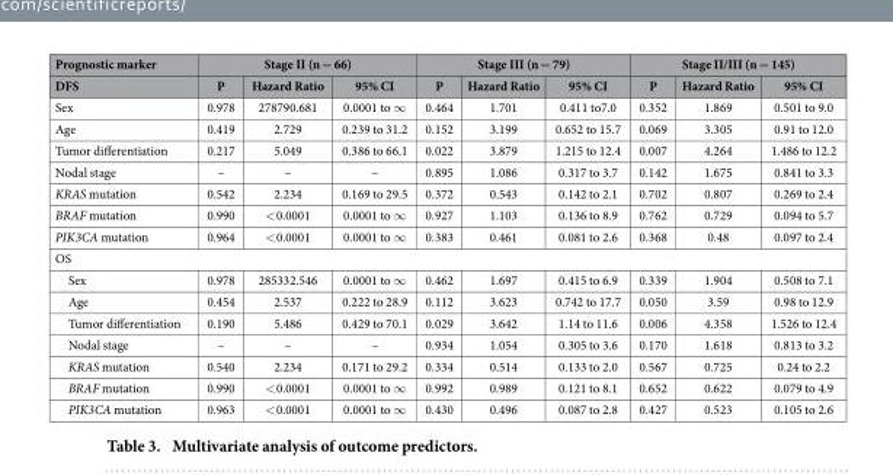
<table><thead><tr><td rowspan="2">Prognostic marker DFS</td><td colspan="3">Stage II (n = 66)</td><td colspan="3">Stage III (n = 79)</td><td colspan="3">Stage II/III (n = 145)</td></tr><tr><td>P</td><td>Hazard Ratio</td><td>95% CI</td><td>P</td><td>Hazard Ratio</td><td>95% CI</td><td>P</td><td>Hazard Ratio</td><td>95% CI</td></tr></thead><tbody><tr><td>Sex</td><td>0.978</td><td>278790.681</td><td>0.0001 to ∞</td><td>0.464</td><td>1.701</td><td>0.411 to7.0</td><td>0.352</td><td>1.869</td><td>0.501 to 9.0</td></tr><tr><td>Age</td><td>0.419</td><td>2.729</td><td>0.239 to 31.2</td><td>0.152</td><td>3.199</td><td>0.652 to 15.7</td><td>0.069</td><td>3.305</td><td>0.91 to 12.0</td></tr><tr><td>Tumor differentiation</td><td>0.217</td><td>5.049</td><td>0.386 to 66.1</td><td>0.022</td><td>3.879</td><td>1.215 to 12.4</td><td>0.007</td><td>4.264</td><td>1.486 to 12.2</td></tr><tr><td>Nodal stage</td><td>–</td><td>–</td><td>–</td><td>0.895</td><td>1.086</td><td>0.317 to 3.7</td><td>0.142</td><td>1.675</td><td>0.841 to 3.3</td></tr><tr><td>KRAS mutation</td><td>0.542</td><td>2.234</td><td>0.169 to 29.5</td><td>0.372</td><td>0.543</td><td>0.142 to 2.1</td><td>0.702</td><td>0.807</td><td>0.269 to 2.4</td></tr><tr><td>BRAF mutation</td><td>0.990</td><td>&lt; 0.0001</td><td>0.0001 to ∞</td><td>0.927</td><td>1.103</td><td>0.136 to 8.9</td><td>0.762</td><td>0.729</td><td>0.094 to 5.7</td></tr><tr><td>PIK3CA mutation</td><td>0.964</td><td>&lt; 0.0001</td><td>0.0001 to ∞</td><td>0.383</td><td>0.461</td><td>0.081 to 2.6</td><td>0.368</td><td>0.48</td><td>0.097 to 2.4</td></tr><tr><td colspan="10">OS</td></tr><tr><td>Sex</td><td>0.978</td><td>285332.546</td><td>0.0001 to ∞</td><td>0.462</td><td>1.697</td><td>0.415 to 6.9</td><td>0.339</td><td>1.904</td><td>0.508 to 7.1</td></tr><tr><td>Age</td><td>0.454</td><td>2.537</td><td>0.222 to 28.9</td><td>0.112</td><td>3.623</td><td>0.742 to 17.7</td><td>0.050</td><td>3.59</td><td>0.98 to 12.9</td></tr><tr><td>Tumor differentiation</td><td>0.190</td><td>5.486</td><td>0.429 to 70.1</td><td>0.029</td><td>3.642</td><td>1.14 to 11.6</td><td>0.006</td><td>4.358</td><td>1.526 to 12.4</td></tr><tr><td>Nodal stage</td><td>–</td><td>–</td><td>–</td><td>0.934</td><td>1.054</td><td>0.305 to 3.6</td><td>0.170</td><td>1.618</td><td>0.813 to 3.2</td></tr><tr><td>KRAS mutation</td><td>0.540</td><td>2.234</td><td>0.171 to 29.2</td><td>0.334</td><td>0.514</td><td>0.133 to 2.0</td><td>0.567</td><td>0.725</td><td>0.24 to 2.2</td></tr><tr><td>BRAF mutation</td><td>0.990</td><td>&lt; 0.0001</td><td>0.0001 to ∞</td><td>0.992</td><td>0.989</td><td>0.121 to 8.1</td><td>0.652</td><td>0.622</td><td>0.079 to 4.9</td></tr><tr><td>PIK3CA mutation</td><td>0.963</td><td>&lt; 0.0001</td><td>0.0001 to ∞</td><td>0.430</td><td>0.496</td><td>0.087 to 2.8</td><td>0.427</td><td>0.523</td><td>0.105 to 2.6</td></tr></tbody></table>